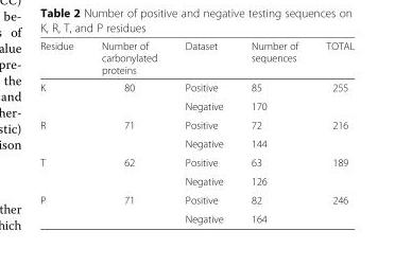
<table><thead><tr><td>Residue</td><td>Number of carbonylated proteins</td><td>Dataset</td><td>Number of sequences</td><td>TOTAL</td></tr></thead><tbody><tr><td rowspan="2">K</td><td>80</td><td>Positive</td><td>85</td><td>255</td></tr><tr><td></td><td>Negative</td><td>170</td><td></td></tr><tr><td rowspan="2">R</td><td>71</td><td>Positive</td><td>72</td><td>216</td></tr><tr><td></td><td>Negative</td><td>144</td><td></td></tr><tr><td rowspan="2">T</td><td>62</td><td>Positive</td><td>63</td><td>189</td></tr><tr><td></td><td>Negative</td><td>126</td><td></td></tr><tr><td rowspan="2">P</td><td>71</td><td>Positive</td><td>82</td><td>246</td></tr><tr><td></td><td>Negative</td><td>164</td><td></td></tr></tbody></table>